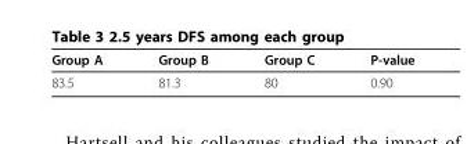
<table><thead><tr><td>Group A</td><td>Group B</td><td>Group C</td><td>P-value</td></tr></thead><tbody><tr><td>83.5</td><td>81.3</td><td>80</td><td>0.90</td></tr></tbody></table>